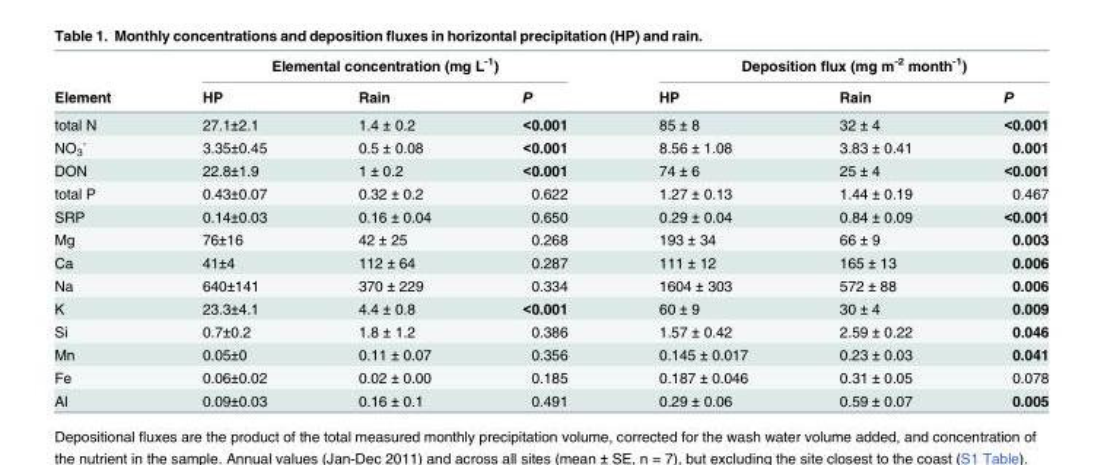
<table><thead><tr><td rowspan="2">Element</td><td colspan="3">Elemental concentration (mg L<sup>-1</sup>)</td><td colspan="3">Deposition flux (mg m<sup>-2</sup> month<sup>-1</sup>)</td></tr><tr><td>HP</td><td>Rain</td><td>P</td><td>HP</td><td>Rain</td><td>P</td></tr></thead><tbody><tr><td>total N</td><td>27.1±2.1</td><td>1.4 ± 0.2</td><td>&lt;0.001</td><td>85 ± 8</td><td>32 ± 4</td><td>&lt;0.001</td></tr><tr><td>NO<sub>3</sub> <sup>-</sup></td><td>3.35±0.45</td><td>0.5 ± 0.08</td><td>&lt;0.001</td><td>8.56 ± 1.08</td><td>3.83 ± 0.41</td><td>0.001</td></tr><tr><td>DON</td><td>22.8±1.9</td><td>1 ± 0.2</td><td>&lt;0.001</td><td>74 ± 6</td><td>25 ± 4</td><td>&lt;0.001</td></tr><tr><td>total P</td><td>0.43±0.07</td><td>0.32 ± 0.2</td><td>0.622</td><td>1.27 ± 0.13</td><td>1.44 ± 0.19</td><td>0.467</td></tr><tr><td>SRP</td><td>0.14±0.03</td><td>0.16 ± 0.04</td><td>0.650</td><td>0.29 ± 0.04</td><td>0.84 ± 0.09</td><td>&lt;0.001</td></tr><tr><td>Mg</td><td>76±16</td><td>42 ± 25</td><td>0.268</td><td>193 ± 34</td><td>66 ± 9</td><td>0.003</td></tr><tr><td>Ca</td><td>41±4</td><td>112 ± 64</td><td>0.287</td><td>111 ± 12</td><td>165 ± 13</td><td>0.006</td></tr><tr><td>Na</td><td>640±141</td><td>370 ± 229</td><td>0.334</td><td>1604 ± 303</td><td>572 ± 88</td><td>0.006</td></tr><tr><td>K</td><td>23.3±4.1</td><td>4.4 ± 0.8</td><td>&lt;0.001</td><td>60 ± 9</td><td>30 ± 4</td><td>0.009</td></tr><tr><td>Si</td><td>0.7±0.2</td><td>1.8 ± 1.2</td><td>0.386</td><td>1.57 ± 0.42</td><td>2.59 ± 0.22</td><td>0.046</td></tr><tr><td>Mn</td><td>0.05±0</td><td>0.11 ± 0.07</td><td>0.356</td><td>0.145 ± 0.017</td><td>0.23 ± 0.03</td><td>0.041</td></tr><tr><td>Fe</td><td>0.06±0.02</td><td>0.02 ± 0.00</td><td>0.185</td><td>0.187 ± 0.046</td><td>0.31 ± 0.05</td><td>0.078</td></tr><tr><td>Al</td><td>0.09±0.03</td><td>0.16 ± 0.1</td><td>0.491</td><td>0.29 ± 0.06</td><td>0.59 ± 0.07</td><td>0.005</td></tr></tbody></table>